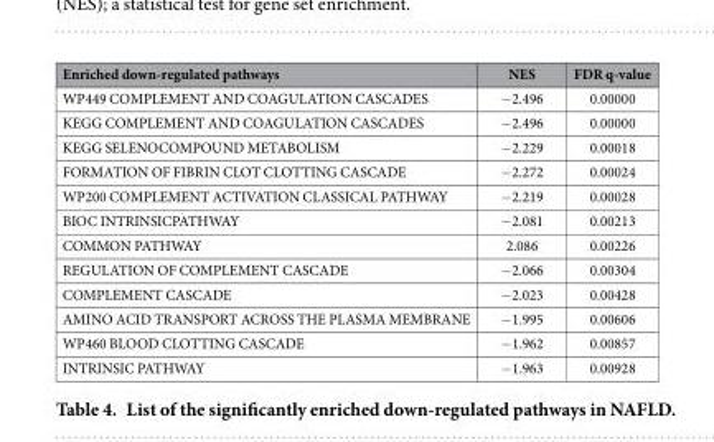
<table><thead><tr><td>Enriched down-regulated pathways</td><td>NES</td><td>FDR q-value</td></tr></thead><tbody><tr><td>WP449 COMPLEMENT AND COAGULATION CASCADES</td><td>− 2.496</td><td>0.00000</td></tr><tr><td>KEGG COMPLEMENT AND COAGULATION CASCADES</td><td>− 2.496</td><td>0.00000</td></tr><tr><td>KEGG SELENOCOMPOUND METABOLISM</td><td>− 2.229</td><td>0.00018</td></tr><tr><td>FORMATION OF FIBRIN CLOT CLOTTING CASCADE</td><td>− 2.272</td><td>0.00024</td></tr><tr><td>WP200 COMPLEMENT ACTIVATION CLASSICAL PATHWAY</td><td>− 2.219</td><td>0.00028</td></tr><tr><td>BIOC INTRINSICPATHWAY</td><td>− 2.081</td><td>0.00213</td></tr><tr><td>COMMON PATHWAY</td><td>2.086</td><td>0.00226</td></tr><tr><td>REGULATION OF COMPLEMENT CASCADE</td><td>− 2.066</td><td>0.00304</td></tr><tr><td>COMPLEMENT CASCADE</td><td>− 2.023</td><td>0.00428</td></tr><tr><td>AMINO ACID TRANSPORT ACROSS THE PLASMA MEMBRANE</td><td>− 1.995</td><td>0.00606</td></tr><tr><td>WP460 BLOOD CLOTTING CASCADE</td><td>− 1.962</td><td>0.00857</td></tr><tr><td>INTRINSIC PATHWAY</td><td>− 1.963</td><td>0.00928</td></tr></tbody></table>